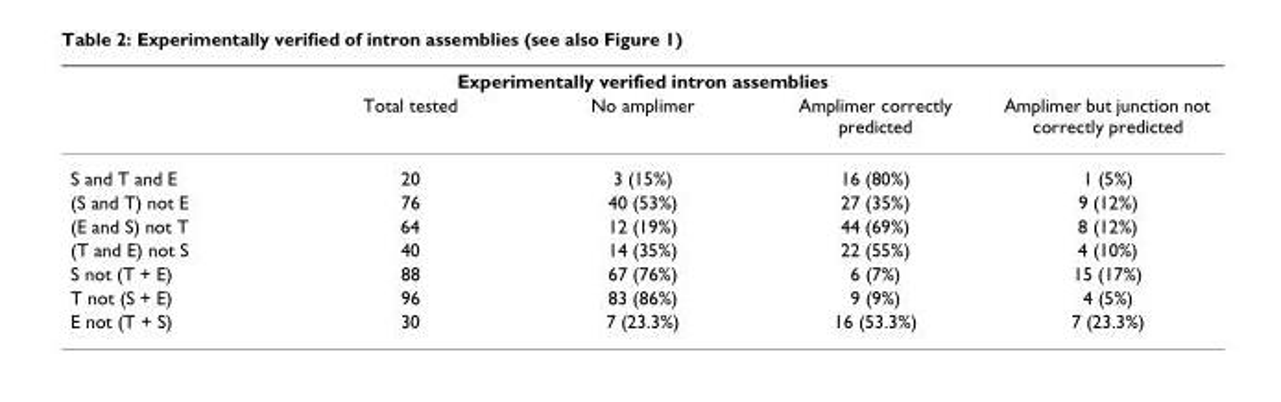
<table><thead><tr><td colspan="5">Experimentally verified intron assemblies</td></tr><tr><td></td><td>Total tested</td><td>No amplimer</td><td>Amplimer correctly predicted</td><td>Amplimer but junction not correctly predicted</td></tr></thead><tbody><tr><td>S and T and E</td><td>20</td><td>3 (15%)</td><td>16 (80%)</td><td>1 (5%)</td></tr><tr><td>(S and T) not E</td><td>76</td><td>40 (53%)</td><td>27 (35%)</td><td>9 (12%)</td></tr><tr><td>(E and S) not T</td><td>64</td><td>12 (19%)</td><td>44 (69%)</td><td>8 (12%)</td></tr><tr><td>(T and E) not S</td><td>40</td><td>14 (35%)</td><td>22 (55%)</td><td>4 (10%)</td></tr><tr><td>S not (T + E)</td><td>88</td><td>67 (76%)</td><td>6 (7%)</td><td>15 (17%)</td></tr><tr><td>T not (S + E)</td><td>96</td><td>83 (86%)</td><td>9 (9%)</td><td>4 (5%)</td></tr><tr><td>E not (T + S)</td><td>30</td><td>7 (23.3%)</td><td>16 (53.3%)</td><td>7 (23.3%)</td></tr></tbody></table>